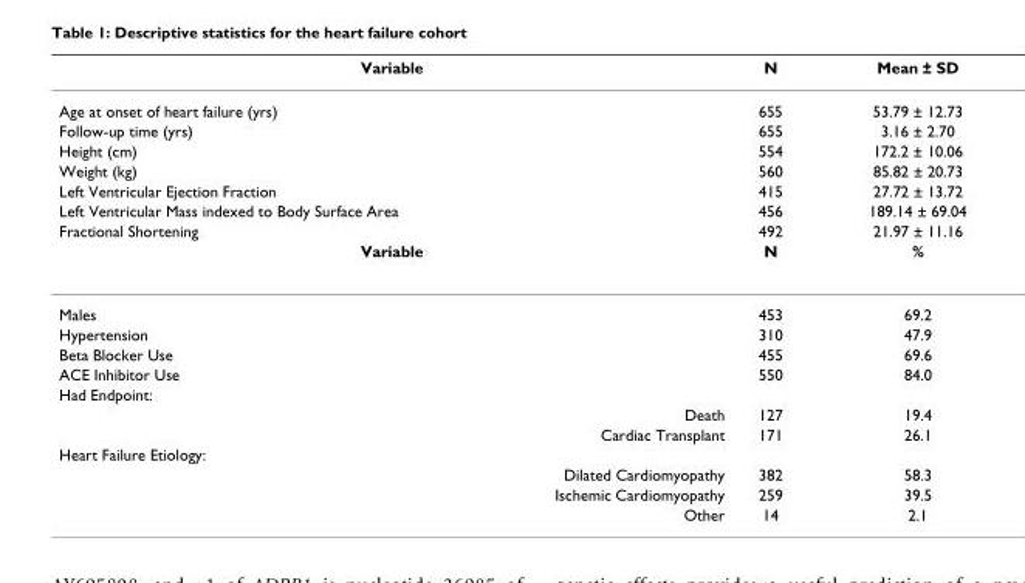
<table><thead><tr><td>Variable</td><td>N</td><td>Mean ± SD</td></tr></thead><tbody><tr><td>Age at onset of heart failure (yrs)</td><td>655</td><td>53.79 ± 12.73</td></tr><tr><td>Follow-up time (yrs)</td><td>655</td><td>3.16 ± 2.70</td></tr><tr><td>Height (cm)</td><td>554</td><td>172.2 ± 10.06</td></tr><tr><td>Weight (kg)</td><td>560</td><td>85.82 ± 20.73</td></tr><tr><td>Left Ventricular Ejection Fraction</td><td>415</td><td>27.72 ± 13.72</td></tr><tr><td>Left Ventricular Mass indexed to Body Surface Area</td><td>456</td><td>189.14 ± 69.04</td></tr><tr><td>Fractional Shortening</td><td>492</td><td>21.97 ± 11.16</td></tr><tr><td>Variable</td><td>N</td><td>%</td></tr><tr><td>Males</td><td>453</td><td>69.2</td></tr><tr><td>Hypertension</td><td>310</td><td>47.9</td></tr><tr><td>Beta Blocker Use</td><td>455</td><td>69.6</td></tr><tr><td>ACE Inhibitor Use</td><td>550</td><td>84.0</td></tr><tr><td colspan="3">Had Endpoint:</td></tr><tr><td>Death</td><td>127</td><td>19.4</td></tr><tr><td>Cardiac Transplant</td><td>171</td><td>26.1</td></tr><tr><td colspan="3">Heart Failure Etiology:</td></tr><tr><td>Dilated Cardiomyopathy</td><td>382</td><td>58.3</td></tr><tr><td>Ischemic Cardiomyopathy</td><td>259</td><td>39.5</td></tr><tr><td>Other</td><td>14</td><td>2.1</td></tr></tbody></table>